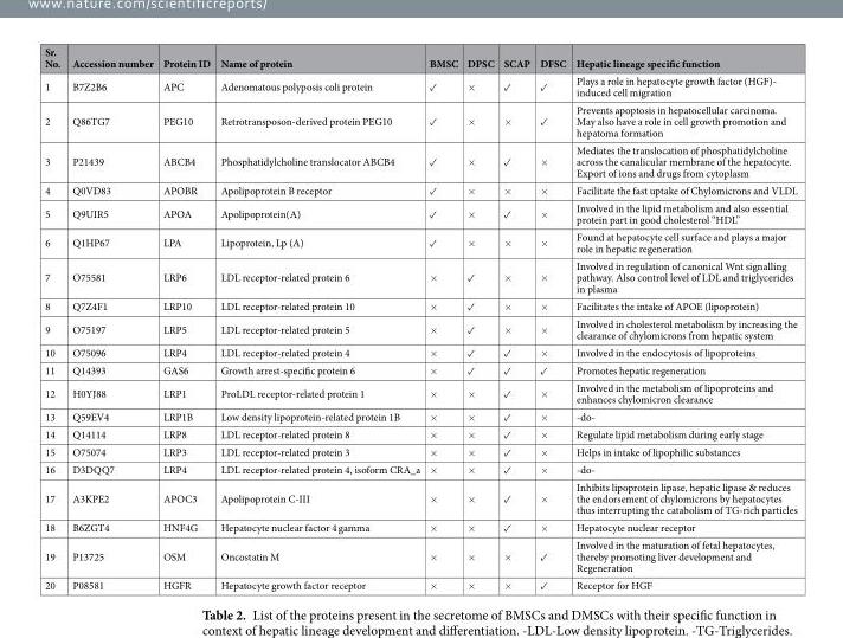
<table><thead><tr><td>Sr. No.</td><td>Accession number</td><td>Protein ID</td><td>Name of protein</td><td>BMSC</td><td>DPSC</td><td>SCAP</td><td>DFSC</td><td>Hepatic lineage specific function</td></tr></thead><tbody><tr><td>1</td><td>B7Z2B6</td><td>APC</td><td>Adenomatous polyposis coli protein</td><td>✓</td><td>×</td><td>✓</td><td>✓</td><td>Plays a role in hepatocyte growth factor (HGF)- induced cell migration</td></tr><tr><td>2</td><td>Q86TG7</td><td>PEG10</td><td>Retrotransposon-derived protein PEG10</td><td>✓</td><td>×</td><td>×</td><td>✓</td><td>Prevents apoptosis in hepatocellular carcinoma. May also have a role in cell growth promotion and hepatoma formation</td></tr><tr><td>3</td><td>P21439</td><td>ABCB4</td><td>Phosphatidylcholine translocator ABCB4</td><td>✓</td><td>×</td><td>✓</td><td>×</td><td>Mediates the translocation of phosphatidylcholine across the canalicular membrane of the hepatocyte. Export of ions and drugs from cytoplasm</td></tr><tr><td>4</td><td>Q0VD83</td><td>APOBR</td><td>Apolipoprotein B receptor</td><td>✓</td><td>×</td><td>×</td><td>×</td><td>Facilitate the fast uptake of Chylomicrons and VLDL</td></tr><tr><td>5</td><td>Q9UIR5</td><td>APOA</td><td>Apolipoprotein(A)</td><td>✓</td><td>×</td><td>✓</td><td>×</td><td>Involved in the lipid metabolism and also essential protein part in good cholesterol “HDL”</td></tr><tr><td>6</td><td>Q1HP67</td><td>LPA</td><td>Lipoprotein, Lp (A)</td><td>✓</td><td>×</td><td>×</td><td>×</td><td>Found at hepatocyte cell surface and plays a major role in hepatic regeneration</td></tr><tr><td>7</td><td>O75581</td><td>LRP6</td><td>LDL receptor-related protein 6</td><td>×</td><td>✓</td><td>×</td><td>×</td><td>Involved in regulation of canonical Wnt signalling pathway. Also control level of LDL and triglycerides in plasma</td></tr><tr><td>8</td><td>Q7Z4F1</td><td>LRP10</td><td>LDL receptor-related protein 10</td><td>×</td><td>✓</td><td>×</td><td>×</td><td>Facilitates the intake of APOE (lipoprotein)</td></tr><tr><td>9</td><td>O75197</td><td>LRP5</td><td>LDL receptor-related protein 5</td><td>×</td><td>✓</td><td>×</td><td>×</td><td>Involved in cholesterol metabolism by increasing the clearance of chylomicrons from hepatic system</td></tr><tr><td>10</td><td>O75096</td><td>LRP4</td><td>LDL receptor-related protein 4</td><td>×</td><td>✓</td><td>✓</td><td>×</td><td>Involved in the endocytosis of lipoproteins</td></tr><tr><td>11</td><td>Q14393</td><td>GAS6</td><td>Growth arrest-specific protein 6</td><td>×</td><td>✓</td><td>✓</td><td>✓</td><td>Promotes hepatic regeneration</td></tr><tr><td>12</td><td>H0YJ88</td><td>LRP1</td><td>ProLDL receptor-related protein 1</td><td>×</td><td>×</td><td>✓</td><td>×</td><td>Involved in the metabolism of lipoproteins and enhances chylomicron clearance</td></tr><tr><td>13</td><td>Q59EV4</td><td>LRP1B</td><td>Low density lipoprotein-related protein 1B</td><td>×</td><td>×</td><td>✓</td><td>×</td><td>-do-</td></tr><tr><td>14</td><td>Q14114</td><td>LRP8</td><td>LDL receptor-related protein 8</td><td>×</td><td>×</td><td>✓</td><td>×</td><td>Regulate lipid metabolism during early stage</td></tr><tr><td>15</td><td>O75074</td><td>LRP3</td><td>LDL receptor-related protein 3</td><td>×</td><td>×</td><td>✓</td><td>×</td><td>Helps in intake of lipophilic substances</td></tr><tr><td>16</td><td>D3DQQ7</td><td>LRP4</td><td>LDL receptor-related protein 4, isoform CRA_a</td><td>×</td><td>×</td><td>✓</td><td>×</td><td>-do-</td></tr><tr><td>17</td><td>A3KPE2</td><td>APOC3</td><td>Apolipoprotein C-III</td><td>×</td><td>×</td><td>✓</td><td>×</td><td>Inhibits lipoprotein lipase, hepatic lipase &amp; reduces the endorsement of chylomicrons by hepatocytes thus interrupting the catabolism of TG-rich particles</td></tr><tr><td>18</td><td>B6ZGT4</td><td>HNF4G</td><td>Hepatocyte nuclear factor 4 gamma</td><td>×</td><td>×</td><td>✓</td><td>×</td><td>Hepatocyte nuclear receptor</td></tr><tr><td>19</td><td>P13725</td><td>OSM</td><td>Oncostatin M</td><td>×</td><td>×</td><td>×</td><td>✓</td><td>Involved in the maturation of fetal hepatocytes, thereby promoting liver development and Regeneration</td></tr><tr><td>20</td><td>P08581</td><td>HGFR</td><td>Hepatocyte growth factor receptor</td><td>×</td><td>×</td><td>×</td><td>✓</td><td>Receptor for HGF</td></tr></tbody></table>